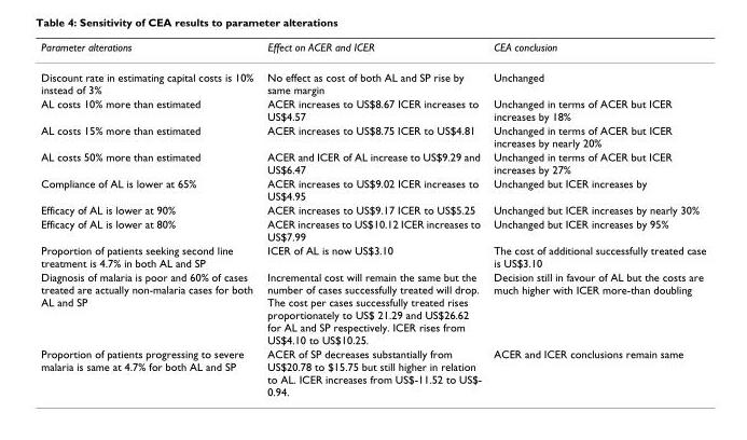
<table><thead><tr><td>Parameter alterations</td><td>Effect on ACER and ICER</td><td>CEA conclusion</td></tr></thead><tbody><tr><td>Discount rate in estimating capital costs is 10% instead of 3%</td><td>No effect as cost of both AL and SP rise by same margin</td><td>Unchanged</td></tr><tr><td>AL costs 10% more than estimated</td><td>ACER increases to US$8.67 ICER increases to US$4.57</td><td>Unchanged in terms of ACER but ICER increases by 18%</td></tr><tr><td>AL costs 15% more than estimated</td><td>ACER increases to US$8.75 ICER to US$4.81</td><td>Unchanged in terms of ACER but ICER increases by nearly 20%</td></tr><tr><td>AL costs 50% more than estimated</td><td>ACER and ICER of AL increase to US$9.29 and US$6.47</td><td>Unchanged in terms of ACER but ICER increases by 27%</td></tr><tr><td>Compliance of AL is lower at 65%</td><td>ACER increases to US$9.02 ICER increases to US$4.95</td><td>Unchanged but ICER increases by</td></tr><tr><td>Efficacy of AL is lower at 90%</td><td>ACER increases to US$9.17 ICER to US$5.25</td><td>Unchanged but ICER increases by nearly 30%</td></tr><tr><td>Efficacy of AL is lower at 80%</td><td>ACER increases to US$10.12 ICER increases to US$7.99</td><td>Unchanged but ICER increases by 95%</td></tr><tr><td>Proportion of patients seeking second line treatment is 4.7% in both AL and SP</td><td>ICER of AL is now US$3.10</td><td>The cost of additional successfully treated case is US$3.10</td></tr><tr><td>Diagnosis of malaria is poor and 60% of cases treated are actually non-malaria cases for both AL and SP</td><td>Incremental cost will remain the same but the number of cases successfully treated will drop. The cost per cases successfully treated rises proportionately to US$ 21.29 and US$26.62 for AL and SP respectively. ICER rises from US$4.10 to US$10.25.</td><td>Decision still in favour of AL but the costs are much higher with ICER more-than doubling</td></tr><tr><td>Proportion of patients progressing to severe malaria is same at 4.7% for both AL and SP</td><td>ACER of SP decreases substantially from US$20.78 to $15.75 but still higher in relation to AL. ICER increases from US$-11.52 to US$- 0.94.</td><td>ACER and ICER conclusions remain same</td></tr></tbody></table>